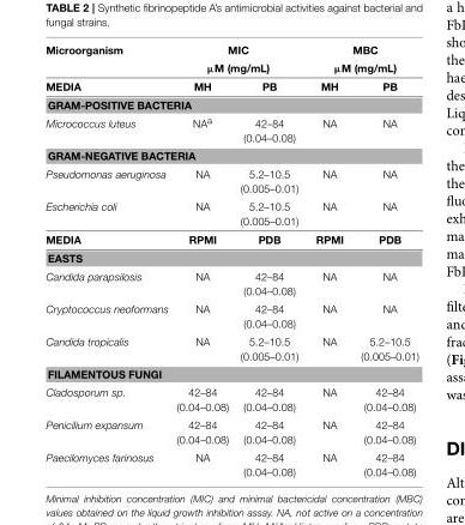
<table><thead><tr><td rowspan="3">Microorganism MEDIA</td><td rowspan="2" colspan="2">MIC µM (mg/mL)</td><td rowspan="2" colspan="2">MBC µM (mg/mL)</td></tr><tr></tr><tr><td>MH</td><td>PB</td><td>MH</td><td>PB</td></tr></thead><tbody><tr><td colspan="5">GRAM-POSITIVE BACTERIA</td></tr><tr><td>Micrococcus luteus</td><td>NA<sup>a</sup></td><td>42–84 (0.04–0.08)</td><td>NA</td><td>NA</td></tr><tr><td colspan="5">GRAM-NEGATIVE BACTERIA</td></tr><tr><td>Pseudomonas aeruginosa</td><td>NA</td><td>5.2–10.5 (0.005–0.01)</td><td>NA</td><td>NA</td></tr><tr><td>Escherichia coli</td><td>NA</td><td>5.2–10.5 (0.005–0.01)</td><td>NA</td><td>NA</td></tr><tr><td>MEDIA</td><td>RPMI</td><td>PDB</td><td>RPMI</td><td>PDB</td></tr><tr><td colspan="5">EASTS</td></tr><tr><td>Candida parapsilosis</td><td>NA</td><td>42–84 (0.04–0.08)</td><td>NA</td><td>NA</td></tr><tr><td>Cryptococcus neoformans</td><td>NA</td><td>42–84 (0.04–0.08)</td><td>NA</td><td>NA</td></tr><tr><td>Candida tropicalis</td><td>NA</td><td>5.2–10.5 (0.005–0.01)</td><td>NA</td><td>5.2–10.5 (0.005–0.01)</td></tr><tr><td colspan="5">FILAMENTOUS FUNGI</td></tr><tr><td>Cladosporum sp.</td><td>42–84 (0.04–0.08)</td><td>42–84 (0.04–0.08)</td><td>NA</td><td>42–84 (0.04–0.08)</td></tr><tr><td>Penicilium expansum</td><td>42–84 (0.04–0.08)</td><td>42–84 (0.04–0.08)</td><td>NA</td><td>42–84 (0.04–0.08)</td></tr><tr><td>Paecilomyces farinosus</td><td>NA</td><td>42–84 (0.04–0.08)</td><td>NA</td><td>42–84 (0.04–0.08)</td></tr></tbody></table>